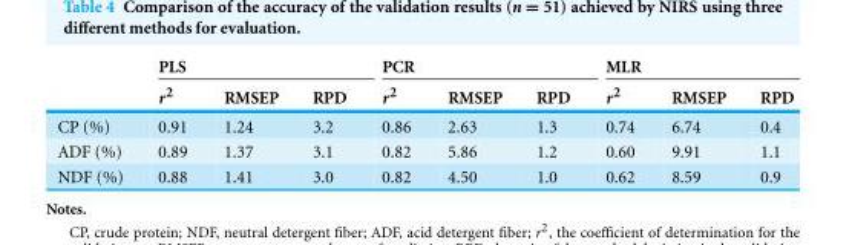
<table><thead><tr><td rowspan="2"></td><td colspan="3">PLS</td><td colspan="3">PCR</td><td colspan="3">MLR</td></tr><tr><td>r<sup>2</sup></td><td>RMSEP</td><td>RPD</td><td>r<sup>2</sup></td><td>RMSEP</td><td>RPD</td><td>r<sup>2</sup></td><td>RMSEP</td><td>RPD</td></tr></thead><tbody><tr><td>CP (%)</td><td>0.91</td><td>1.24</td><td>3.2</td><td>0.86</td><td>2.63</td><td>1.3</td><td>0.74</td><td>6.74</td><td>0.4</td></tr><tr><td>ADF (%)</td><td>0.89</td><td>1.37</td><td>3.1</td><td>0.82</td><td>5.86</td><td>1.2</td><td>0.60</td><td>9.91</td><td>1.1</td></tr><tr><td>NDF (%)</td><td>0.88</td><td>1.41</td><td>3.0</td><td>0.82</td><td>4.50</td><td>1.0</td><td>0.62</td><td>8.59</td><td>0.9</td></tr></tbody></table>